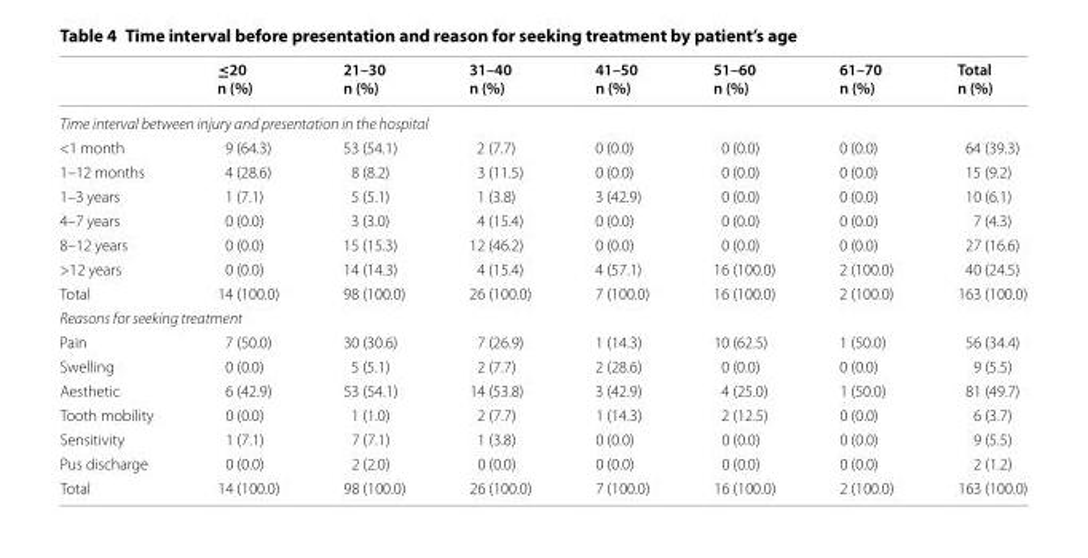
<table><thead><tr><td></td><td>≤20 n (%)</td><td>21–30 n (%)</td><td>31–40 n (%)</td><td>41–50 n (%)</td><td>51–60 n (%)</td><td>61–70 n (%)</td><td>Total n (%)</td></tr></thead><tbody><tr><td colspan="8">Time interval between injury and presentation in the hospital</td></tr><tr><td>&lt;1 month</td><td>9 (64.3)</td><td>53 (54.1)</td><td>2 (7.7)</td><td>0 (0.0)</td><td>0 (0.0)</td><td>0 (0.0)</td><td>64 (39.3)</td></tr><tr><td>1–12 months</td><td>4 (28.6)</td><td>8 (8.2)</td><td>3 (11.5)</td><td>0 (0.0)</td><td>0 (0.0)</td><td>0 (0.0)</td><td>15 (9.2)</td></tr><tr><td>1–3 years</td><td>1 (7.1)</td><td>5 (5.1)</td><td>1 (3.8)</td><td>3 (42.9)</td><td>0 (0.0)</td><td>0 (0.0)</td><td>10 (6.1)</td></tr><tr><td>4–7 years</td><td>0 (0.0)</td><td>3 (3.0)</td><td>4 (15.4)</td><td>0 (0.0)</td><td>0 (0.0)</td><td>0 (0.0)</td><td>7 (4.3)</td></tr><tr><td>8–12 years</td><td>0 (0.0)</td><td>15 (15.3)</td><td>12 (46.2)</td><td>0 (0.0)</td><td>0 (0.0)</td><td>0 (0.0)</td><td>27 (16.6)</td></tr><tr><td>&gt;12 years</td><td>0 (0.0)</td><td>14 (14.3)</td><td>4 (15.4)</td><td>4 (57.1)</td><td>16 (100.0)</td><td>2 (100.0)</td><td>40 (24.5)</td></tr><tr><td>Total</td><td>14 (100.0)</td><td>98 (100.0)</td><td>26 (100.0)</td><td>7 (100.0)</td><td>16 (100.0)</td><td>2 (100.0)</td><td>163 (100.0)</td></tr><tr><td colspan="8">Reasons for seeking treatment</td></tr><tr><td>Pain</td><td>7 (50.0)</td><td>30 (30.6)</td><td>7 (26.9)</td><td>1 (14.3)</td><td>10 (62.5)</td><td>1 (50.0)</td><td>56 (34.4)</td></tr><tr><td>Swelling</td><td>0 (0.0)</td><td>5 (5.1)</td><td>2 (7.7)</td><td>2 (28.6)</td><td>0 (0.0)</td><td>0 (0.0)</td><td>9 (5.5)</td></tr><tr><td>Aesthetic</td><td>6 (42.9)</td><td>53 (54.1)</td><td>14 (53.8)</td><td>3 (42.9)</td><td>4 (25.0)</td><td>1 (50.0)</td><td>81 (49.7)</td></tr><tr><td>Tooth mobility</td><td>0 (0.0)</td><td>1 (1.0)</td><td>2 (7.7)</td><td>1 (14.3)</td><td>2 (12.5)</td><td>0 (0.0)</td><td>6 (3.7)</td></tr><tr><td>Sensitivity</td><td>1 (7.1)</td><td>7 (7.1)</td><td>1 (3.8)</td><td>0 (0.0)</td><td>0 (0.0)</td><td>0 (0.0)</td><td>9 (5.5)</td></tr><tr><td>Pus discharge</td><td>0 (0.0)</td><td>2 (2.0)</td><td>0 (0.0)</td><td>0 (0.0)</td><td>0 (0.0)</td><td>0 (0.0)</td><td>2 (1.2)</td></tr><tr><td>Total</td><td>14 (100.0)</td><td>98 (100.0)</td><td>26 (100.0)</td><td>7 (100.0)</td><td>16 (100.0)</td><td>2 (100.0)</td><td>163 (100.0)</td></tr></tbody></table>